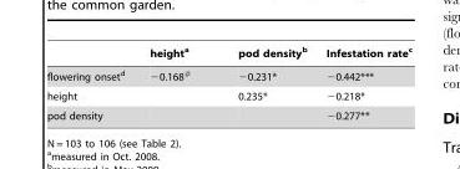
<table><thead><tr><td></td><td>height<sup>a</sup></td><td>pod density<sup>b</sup></td><td>Infestation rate<sup>c</sup></td></tr></thead><tbody><tr><td>flowering onset<sup>d</sup></td><td>−0.168#</td><td>−0.231*</td><td>−0.442***</td></tr><tr><td>height</td><td></td><td>0.235*</td><td>−0.218*</td></tr><tr><td>pod density</td><td></td><td></td><td>−0.277**</td></tr></tbody></table>